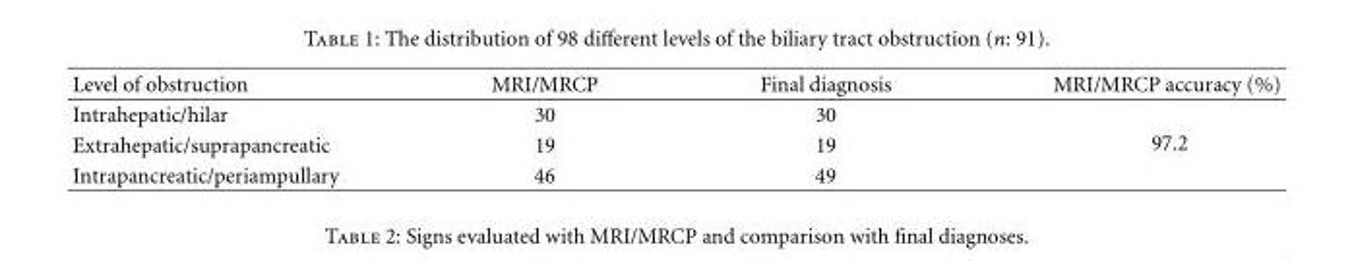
<table><thead><tr><td>Level of obstruction</td><td>MRI/MRCP</td><td>Final diagnosis</td><td>MRI/MRCP accuracy (%)</td></tr></thead><tbody><tr><td>Intrahepatic/hilar</td><td>30</td><td>30</td><td rowspan="3">97.2</td></tr><tr><td>Extrahepatic/suprapancreatic</td><td>19</td><td>19</td></tr><tr><td>Intrapancreatic/periampullary</td><td>46</td><td>49</td></tr></tbody></table>